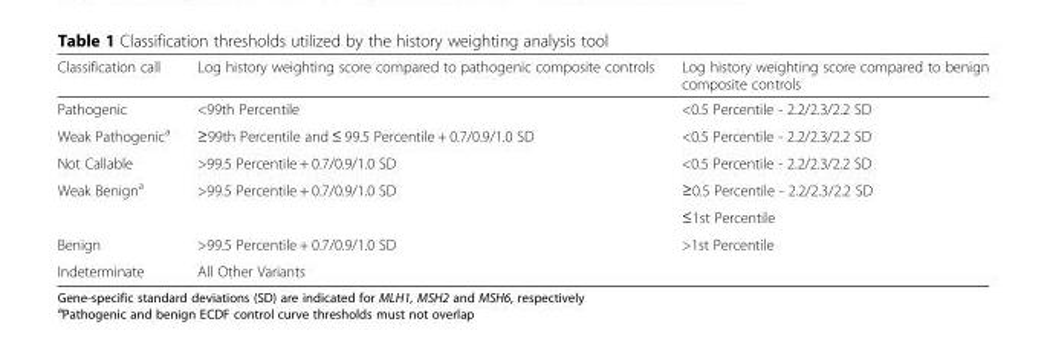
<table><thead><tr><td>Classification call</td><td>Log history weighting score compared to pathogenic composite controls</td><td>Log history weighting score compared to benign composite controls</td></tr></thead><tbody><tr><td>Pathogenic</td><td>&lt;99th Percentile</td><td>&lt;0.5 Percentile - 2.2/2.3/2.2 SD</td></tr><tr><td>Weak Pathogenic<sup>a</sup></td><td>≥99th Percentile and ≤ 99.5 Percentile + 0.7/0.9/1.0 SD</td><td>&lt;0.5 Percentile - 2.2/2.3/2.2 SD</td></tr><tr><td>Not Callable</td><td>&gt;99.5 Percentile + 0.7/0.9/1.0 SD</td><td>&lt;0.5 Percentile - 2.2/2.3/2.2 SD</td></tr><tr><td rowspan="2">Weak Benign<sup>a</sup></td><td rowspan="2">&gt;99.5 Percentile + 0.7/0.9/1.0 SD</td><td>≥0.5 Percentile - 2.2/2.3/2.2 SD</td></tr><tr><td>≤1st Percentile</td></tr><tr><td>Benign</td><td>&gt;99.5 Percentile + 0.7/0.9/1.0 SD</td><td>&gt;1st Percentile</td></tr><tr><td>Indeterminate</td><td colspan="2">All Other Variants</td></tr></tbody></table>